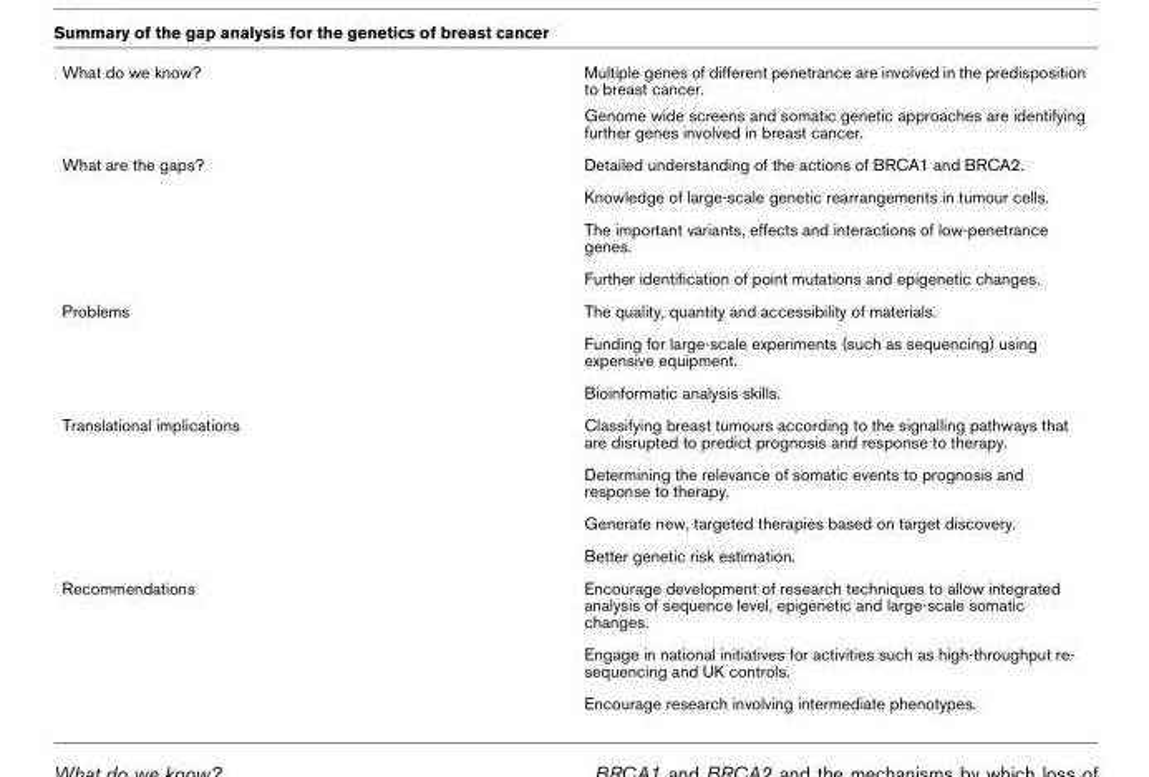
<table><tbody><tr><td rowspan="2">What do we know?</td><td>Multiple genes of different penetrance are involved in the predisposition to breast cancer.</td></tr><tr><td>Genome wide screens and somatic genetic approaches are identifying further genes involved in breast cancer.</td></tr><tr><td rowspan="4">What are the gaps?</td><td>Detailed understanding of the actions of BRCA1 and BRCA2.</td></tr><tr><td>Knowledge of large-scale genetic rearrangements in tumour cells.</td></tr><tr><td>The important variants, effects and interactions of low-penetrance genes.</td></tr><tr><td>Further identification of point mutations and epigenetic changes.</td></tr><tr><td rowspan="3">Problems</td><td>The quality, quantity and accessibility of materials.</td></tr><tr><td>Funding for large-scale experiments (such as sequencing) using expensive equipment.</td></tr><tr><td>Bioinformatic analysis skills.</td></tr><tr><td rowspan="4">Translational implications</td><td>Classifying breast tumours according to the signalling pathways that are disrupted to predict prognosis and response to therapy.</td></tr><tr><td>Determining the relevance of somatic events to prognosis and response to therapy.</td></tr><tr><td>Generate new, targeted therapies based on target discovery.</td></tr><tr><td>Better genetic risk estimation.</td></tr><tr><td rowspan="3">Recommendations</td><td>Encourage development of research techniques to allow integrated analysis of sequence level, epigenetic and large-scale somatic changes.</td></tr><tr><td>Engage in national initiatives for activities such as high-throughput re- sequencing and UK controls.</td></tr><tr><td>Encourage research involving intermediate phenotypes.</td></tr></tbody></table>